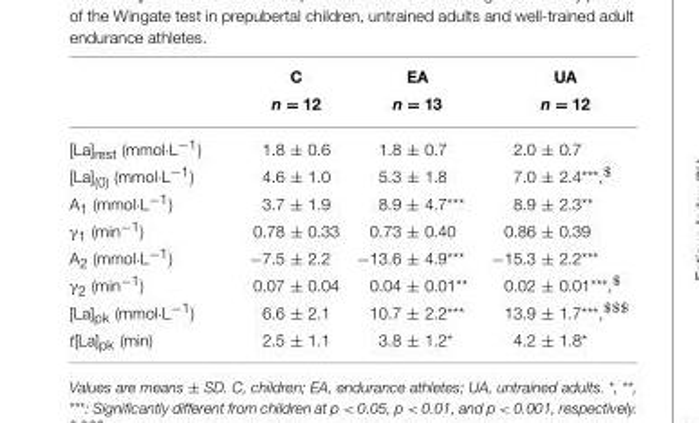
<table><thead><tr><td rowspan="2"></td><td rowspan="2">C n = 12</td><td rowspan="2">EA n = 13</td><td rowspan="2">UA n = 12</td></tr><tr></tr></thead><tbody><tr><td>[La]<sub>rest</sub> (mmol·L<sup>−1</sup>)</td><td>1.8 ± 0.6</td><td>1.8 ± 0.7</td><td>2.0 ± 0.7</td></tr><tr><td>[La]<sub>(0)</sub> (mmol·L<sup>−1</sup>)</td><td>4.6 ± 1.0</td><td>5.3 ± 1.8</td><td>7.0 ± 2.4<sup>***,$</sup></td></tr><tr><td>A<sub>1</sub> (mmol·L<sup>−1</sup>)</td><td>3.7 ± 1.9</td><td>8.9 ± 4.7***</td><td>8.9 ± 2.3**</td></tr><tr><td>γ<sub>1</sub> (min<sup>−1</sup>)</td><td>0.78 ± 0.33</td><td>0.73 ± 0.40</td><td>0.86 ± 0.39</td></tr><tr><td>A<sub>2</sub> (mmol·L<sup>−1</sup>)</td><td>−7.5 ± 2.2</td><td>−13.6 ± 4.9***</td><td>−15.3 ± 2.2***</td></tr><tr><td>γ<sub>2</sub> (min<sup>−1</sup>)</td><td>0.07 ± 0.04</td><td>0.04 ± 0.01**</td><td>0.02 ± 0.01<sup>***,$</sup></td></tr><tr><td>[La]<sub>pk</sub> (mmol·L<sup>−1</sup>)</td><td>6.6 ± 2.1</td><td>10.7 ± 2.2***</td><td>13.9 ± 1.7<sup>***,$$$</sup></td></tr><tr><td>t[La]<sub>pk</sub> (min)</td><td>2.5 ± 1.1</td><td>3.8 ± 1.2*</td><td>4.2 ± 1.8*</td></tr></tbody></table>